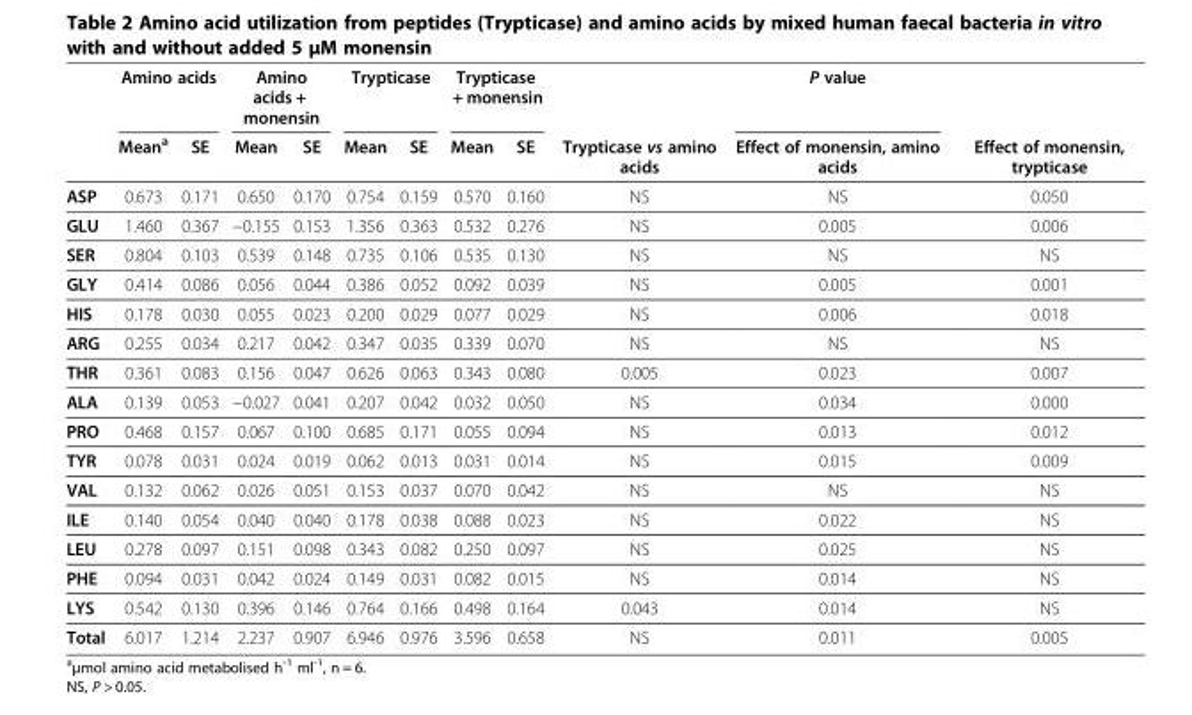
<table><thead><tr><td rowspan="2"></td><td colspan="2">Amino acids</td><td colspan="2">Amino acids + monensin</td><td colspan="2">Trypticase</td><td colspan="2">Trypticase + monensin</td><td rowspan="2">Trypticase vs amino acids</td><td rowspan="2">P value Effect of monensin, amino acids</td><td rowspan="2">Effect of monensin, trypticase</td></tr><tr><td>Mean<sup>a</sup></td><td>SE</td><td>Mean</td><td>SE</td><td>Mean</td><td>SE</td><td>Mean</td><td>SE</td></tr></thead><tbody><tr><td>ASP</td><td>0.673</td><td>0.171</td><td>0.650</td><td>0.170</td><td>0.754</td><td>0.159</td><td>0.570</td><td>0.160</td><td>NS</td><td>NS</td><td>0.050</td></tr><tr><td>GLU</td><td>1.460</td><td>0.367</td><td>−0.155</td><td>0.153</td><td>1.356</td><td>0.363</td><td>0.532</td><td>0.276</td><td>NS</td><td>0.005</td><td>0.006</td></tr><tr><td>SER</td><td>0.804</td><td>0.103</td><td>0.539</td><td>0.148</td><td>0.735</td><td>0.106</td><td>0.535</td><td>0.130</td><td>NS</td><td>NS</td><td>NS</td></tr><tr><td>GLY</td><td>0.414</td><td>0.086</td><td>0.056</td><td>0.044</td><td>0.386</td><td>0.052</td><td>0.092</td><td>0.039</td><td>NS</td><td>0.005</td><td>0.001</td></tr><tr><td>HIS</td><td>0.178</td><td>0.030</td><td>0.055</td><td>0.023</td><td>0.200</td><td>0.029</td><td>0.077</td><td>0.029</td><td>NS</td><td>0.006</td><td>0.018</td></tr><tr><td>ARG</td><td>0.255</td><td>0.034</td><td>0.217</td><td>0.042</td><td>0.347</td><td>0.035</td><td>0.339</td><td>0.070</td><td>NS</td><td>NS</td><td>NS</td></tr><tr><td>THR</td><td>0.361</td><td>0.083</td><td>0.156</td><td>0.047</td><td>0.626</td><td>0.063</td><td>0.343</td><td>0.080</td><td>0.005</td><td>0.023</td><td>0.007</td></tr><tr><td>ALA</td><td>0.139</td><td>0.053</td><td>−0.027</td><td>0.041</td><td>0.207</td><td>0.042</td><td>0.032</td><td>0.050</td><td>NS</td><td>0.034</td><td>0.000</td></tr><tr><td>PRO</td><td>0.468</td><td>0.157</td><td>0.067</td><td>0.100</td><td>0.685</td><td>0.171</td><td>0.055</td><td>0.094</td><td>NS</td><td>0.013</td><td>0.012</td></tr><tr><td>TYR</td><td>0.078</td><td>0.031</td><td>0.024</td><td>0.019</td><td>0.062</td><td>0.013</td><td>0.031</td><td>0.014</td><td>NS</td><td>0.015</td><td>0.009</td></tr><tr><td>VAL</td><td>0.132</td><td>0.062</td><td>0.026</td><td>0.051</td><td>0.153</td><td>0.037</td><td>0.070</td><td>0.042</td><td>NS</td><td>NS</td><td>NS</td></tr><tr><td>ILE</td><td>0.140</td><td>0.054</td><td>0.040</td><td>0.040</td><td>0.178</td><td>0.038</td><td>0.088</td><td>0.023</td><td>NS</td><td>0.022</td><td>NS</td></tr><tr><td>LEU</td><td>0.278</td><td>0.097</td><td>0.151</td><td>0.098</td><td>0.343</td><td>0.082</td><td>0.250</td><td>0.097</td><td>NS</td><td>0.025</td><td>NS</td></tr><tr><td>PHE</td><td>0.094</td><td>0.031</td><td>0.042</td><td>0.024</td><td>0.149</td><td>0.031</td><td>0.082</td><td>0.015</td><td>NS</td><td>0.014</td><td>NS</td></tr><tr><td>LYS</td><td>0.542</td><td>0.130</td><td>0.396</td><td>0.146</td><td>0.764</td><td>0.166</td><td>0.498</td><td>0.164</td><td>0.043</td><td>0.014</td><td>NS</td></tr><tr><td>Total</td><td>6.017</td><td>1.214</td><td>2.237</td><td>0.907</td><td>6.946</td><td>0.976</td><td>3.596</td><td>0.658</td><td>NS</td><td>0.011</td><td>0.005</td></tr></tbody></table>